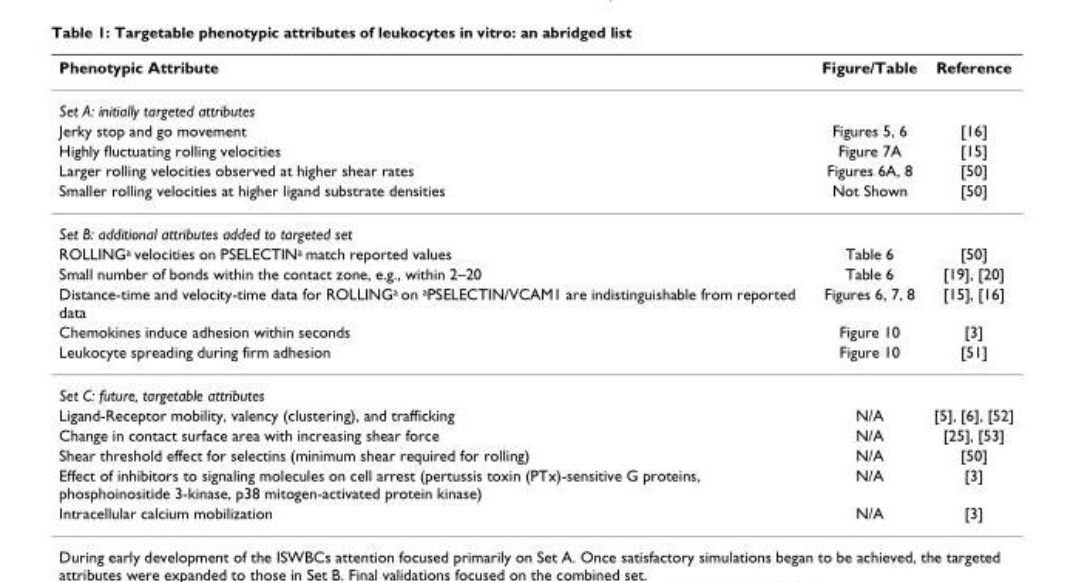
<table><thead><tr><td>Phenotypic Attribute</td><td>Figure/Table</td><td>Reference</td></tr></thead><tbody><tr><td colspan="3">Set A: initially targeted attributes</td></tr><tr><td>Jerky stop and go movement</td><td>Figures 5, 6</td><td>[16]</td></tr><tr><td>Highly fluctuating rolling velocities</td><td>Figure 7A</td><td>[15]</td></tr><tr><td>Larger rolling velocities observed at higher shear rates</td><td>Figures 6A, 8</td><td>[50]</td></tr><tr><td>Smaller rolling velocities at higher ligand substrate densities</td><td>Not Shown</td><td>[50]</td></tr><tr><td colspan="3">Set B: additional attributes added to targeted set</td></tr><tr><td>ROLLINGa velocities on PSELECTINa match reported values</td><td>Table 6</td><td>[50]</td></tr><tr><td>Small number of bonds within the contact zone, e.g., within 2–20</td><td>Table 6</td><td>[19], [20]</td></tr><tr><td>Distance-time and velocity-time data for ROLLINGa on aPSELECTIN/VCAM1 are indistinguishable from reported data</td><td>Figures 6, 7, 8</td><td>[15], [16]</td></tr><tr><td>Chemokines induce adhesion within seconds</td><td>Figure 10</td><td>[3]</td></tr><tr><td>Leukocyte spreading during firm adhesion</td><td>Figure 10</td><td>[51]</td></tr><tr><td colspan="3">Set C: future, targetable attributes</td></tr><tr><td>Ligand-Receptor mobility, valency (clustering), and trafficking</td><td>N/A</td><td>[5], [6], [52]</td></tr><tr><td>Change in contact surface area with increasing shear force</td><td>N/A</td><td>[25], [53]</td></tr><tr><td>Shear threshold effect for selectins (minimum shear required for rolling)</td><td>N/A</td><td>[50]</td></tr><tr><td>Effect of inhibitors to signaling molecules on cell arrest (pertussis toxin (PTx)-sensitive G proteins, phosphoinositide 3-kinase, p38 mitogen-activated protein kinase)</td><td>N/A</td><td>[3]</td></tr><tr><td>Intracellular calcium mobilization</td><td>N/A</td><td>[3]</td></tr></tbody></table>